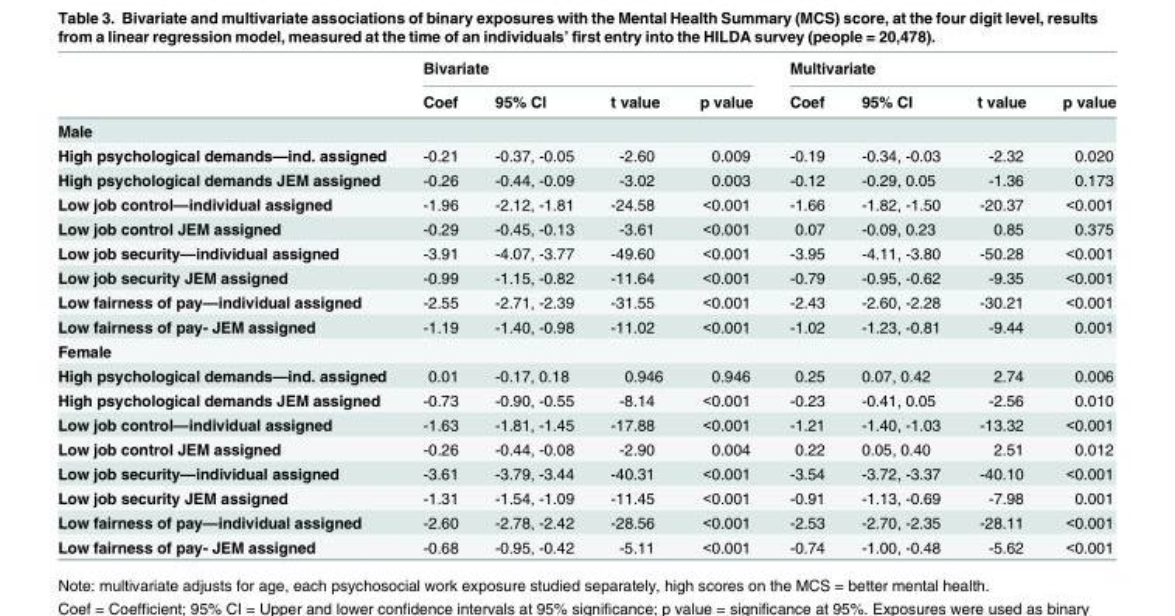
<table><thead><tr><td rowspan="2"></td><td colspan="4">Bivariate</td><td colspan="4">Multivariate</td></tr><tr><td>Coef</td><td>95% CI</td><td>t value</td><td>p value</td><td>Coef</td><td>95% CI</td><td>t value</td><td>p value</td></tr></thead><tbody><tr><td colspan="9">Male</td></tr><tr><td>High psychological demands—ind. assigned</td><td>-0.21</td><td>-0.37, -0.05</td><td>-2.60</td><td>0.009</td><td>-0.19</td><td>-0.34, -0.03</td><td>-2.32</td><td>0.020</td></tr><tr><td>High psychological demands JEM assigned</td><td>-0.26</td><td>-0.44, -0.09</td><td>-3.02</td><td>0.003</td><td>-0.12</td><td>-0.29, 0.05</td><td>-1.36</td><td>0.173</td></tr><tr><td>Low job control—individual assigned</td><td>-1.96</td><td>-2.12, -1.81</td><td>-24.58</td><td>&lt;0.001</td><td>-1.66</td><td>-1.82, -1.50</td><td>-20.37</td><td>&lt;0.001</td></tr><tr><td>Low job control JEM assigned</td><td>-0.29</td><td>-0.45, -0.13</td><td>-3.61</td><td>&lt;0.001</td><td>0.07</td><td>-0.09, 0.23</td><td>0.85</td><td>0.375</td></tr><tr><td>Low job security—individual assigned</td><td>-3.91</td><td>-4.07, -3.77</td><td>-49.60</td><td>&lt;0.001</td><td>-3.95</td><td>-4.11, -3.80</td><td>-50.28</td><td>&lt;0.001</td></tr><tr><td>Low job security JEM assigned</td><td>-0.99</td><td>-1.15, -0.82</td><td>-11.64</td><td>&lt;0.001</td><td>-0.79</td><td>-0.95, -0.62</td><td>-9.35</td><td>&lt;0.001</td></tr><tr><td>Low fairness of pay—individual assigned</td><td>-2.55</td><td>-2.71, -2.39</td><td>-31.55</td><td>&lt;0.001</td><td>-2.43</td><td>-2.60, -2.28</td><td>-30.21</td><td>&lt;0.001</td></tr><tr><td>Low fairness of pay- JEM assigned</td><td>-1.19</td><td>-1.40, -0.98</td><td>-11.02</td><td>&lt;0.001</td><td>-1.02</td><td>-1.23, -0.81</td><td>-9.44</td><td>0.001</td></tr><tr><td colspan="9">Female</td></tr><tr><td>High psychological demands—ind. assigned</td><td>0.01</td><td>-0.17, 0.18</td><td>0.946</td><td>0.946</td><td>0.25</td><td>0.07, 0.42</td><td>2.74</td><td>0.006</td></tr><tr><td>High psychological demands JEM assigned</td><td>-0.73</td><td>-0.90, -0.55</td><td>-8.14</td><td>&lt;0.001</td><td>-0.23</td><td>-0.41, 0.05</td><td>-2.56</td><td>0.010</td></tr><tr><td>Low job control—individual assigned</td><td>-1.63</td><td>-1.81, -1.45</td><td>-17.88</td><td>&lt;0.001</td><td>-1.21</td><td>-1.40, -1.03</td><td>-13.32</td><td>&lt;0.001</td></tr><tr><td>Low job control JEM assigned</td><td>-0.26</td><td>-0.44, -0.08</td><td>-2.90</td><td>0.004</td><td>0.22</td><td>0.05, 0.40</td><td>2.51</td><td>0.012</td></tr><tr><td>Low job security—individual assigned</td><td>-3.61</td><td>-3.79, -3.44</td><td>-40.31</td><td>&lt;0.001</td><td>-3.54</td><td>-3.72, -3.37</td><td>-40.10</td><td>&lt;0.001</td></tr><tr><td>Low job security JEM assigned</td><td>-1.31</td><td>-1.54, -1.09</td><td>-11.45</td><td>&lt;0.001</td><td>-0.91</td><td>-1.13, -0.69</td><td>-7.98</td><td>0.001</td></tr><tr><td>Low fairness of pay—individual assigned</td><td>-2.60</td><td>-2.78, -2.42</td><td>-28.56</td><td>&lt;0.001</td><td>-2.53</td><td>-2.70, -2.35</td><td>-28.11</td><td>&lt;0.001</td></tr><tr><td>Low fairness of pay- JEM assigned</td><td>-0.68</td><td>-0.95, -0.42</td><td>-5.11</td><td>&lt;0.001</td><td>-0.74</td><td>-1.00, -0.48</td><td>-5.62</td><td>&lt;0.001</td></tr></tbody></table>